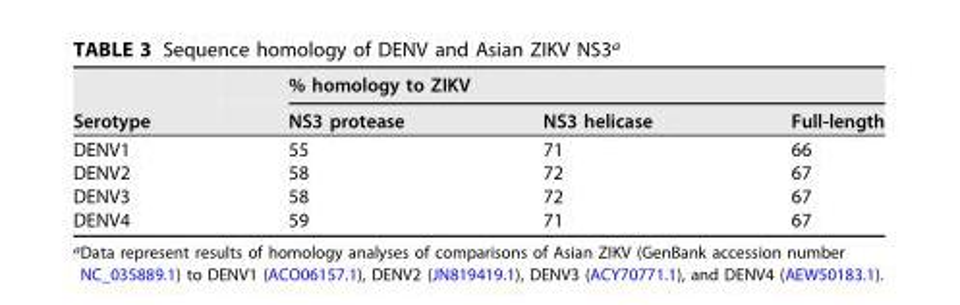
<table><thead><tr><td rowspan="2">Serotype</td><td colspan="3">% homology to ZIKV</td></tr><tr><td>NS3 protease</td><td>NS3 helicase</td><td>Full-length</td></tr></thead><tbody><tr><td>DENV1</td><td>55</td><td>71</td><td>66</td></tr><tr><td>DENV2</td><td>58</td><td>72</td><td>67</td></tr><tr><td>DENV3</td><td>58</td><td>72</td><td>67</td></tr><tr><td>DENV4</td><td>59</td><td>71</td><td>67</td></tr></tbody></table>